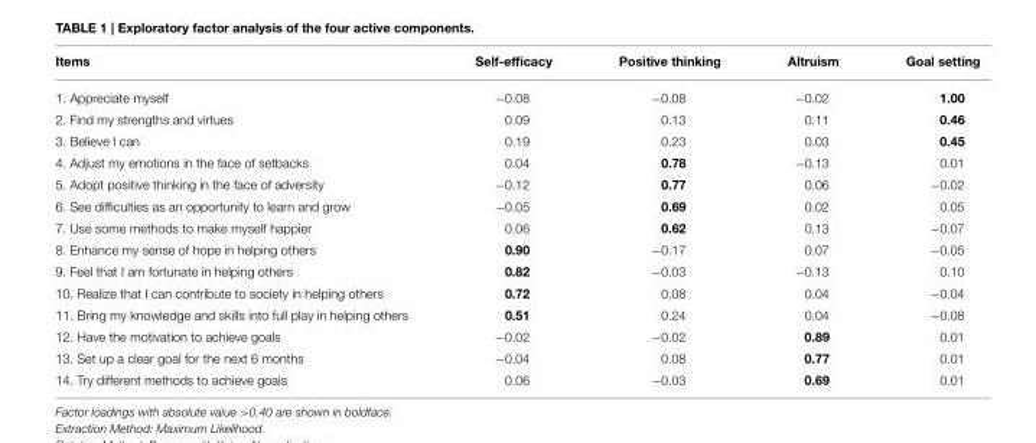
<table><thead><tr><td>Items</td><td>Self-efficacy</td><td>Positive thinking</td><td>Altruism</td><td>Goal setting</td></tr></thead><tbody><tr><td>1. Appreciate myself</td><td>−0.08</td><td>−0.08</td><td>−0.02</td><td>1.00</td></tr><tr><td>2. Find my strengths and virtues</td><td>0.09</td><td>0.13</td><td>0.11</td><td>0.46</td></tr><tr><td>3. Believe I can</td><td>0.19</td><td>0.23</td><td>0.03</td><td>0.45</td></tr><tr><td>4. Adjust my emotions in the face of setbacks</td><td>0.04</td><td>0.78</td><td>−0.13</td><td>0.01</td></tr><tr><td>5. Adopt positive thinking in the face of adversity</td><td>−0.12</td><td>0.77</td><td>0.06</td><td>−0.02</td></tr><tr><td>6. See difficulties as an opportunity to learn and grow</td><td>−0.05</td><td>0.69</td><td>0.02</td><td>0.05</td></tr><tr><td>7. Use some methods to make myself happier</td><td>0.06</td><td>0.62</td><td>0.13</td><td>−0.07</td></tr><tr><td>8. Enhance my sense of hope in helping others</td><td>0.90</td><td>−0.17</td><td>0.07</td><td>−0.05</td></tr><tr><td>9. Feel that I am fortunate in helping others</td><td>0.82</td><td>−0.03</td><td>−0.13</td><td>0.10</td></tr><tr><td>10. Realize that I can contribute to society in helping others</td><td>0.72</td><td>0.08</td><td>0.04</td><td>−0.04</td></tr><tr><td>11. Bring my knowledge and skills into full play in helping others</td><td>0.51</td><td>0.24</td><td>0.04</td><td>−0.08</td></tr><tr><td>12. Have the motivation to achieve goals</td><td>−0.02</td><td>−0.02</td><td>0.89</td><td>0.01</td></tr><tr><td>13. Set up a clear goal for the next 6 months</td><td>−0.04</td><td>0.08</td><td>0.77</td><td>0.01</td></tr><tr><td>14. Try different methods to achieve goals</td><td>0.06</td><td>−0.03</td><td>0.69</td><td>0.01</td></tr></tbody></table>